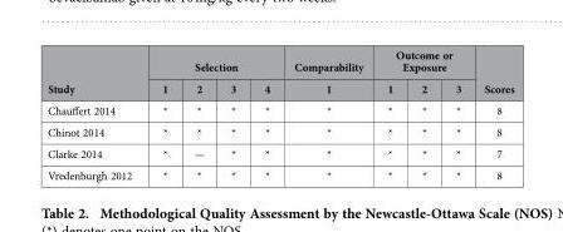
<table><thead><tr><td rowspan="2">Study</td><td colspan="4">Selection</td><td rowspan="2">Comparability 1</td><td colspan="3">Outcome or Exposure</td><td rowspan="2">Scores</td></tr><tr><td>1</td><td>2</td><td>3</td><td>4</td><td>1</td><td>2</td><td>3</td></tr></thead><tbody><tr><td>Chauffert 2014</td><td>*</td><td>*</td><td>*</td><td>*</td><td>*</td><td>*</td><td>*</td><td>*</td><td>8</td></tr><tr><td>Chinot 2014</td><td>*</td><td>*</td><td>*</td><td>*</td><td>*</td><td>*</td><td>*</td><td>*</td><td>8</td></tr><tr><td>Clarke 2014</td><td>*</td><td>—</td><td>*</td><td>*</td><td>*</td><td>*</td><td>*</td><td>*</td><td>7</td></tr><tr><td>Vredenburgh 2012</td><td>*</td><td>*</td><td>*</td><td>*</td><td>*</td><td>*</td><td>*</td><td>*</td><td>8</td></tr></tbody></table>